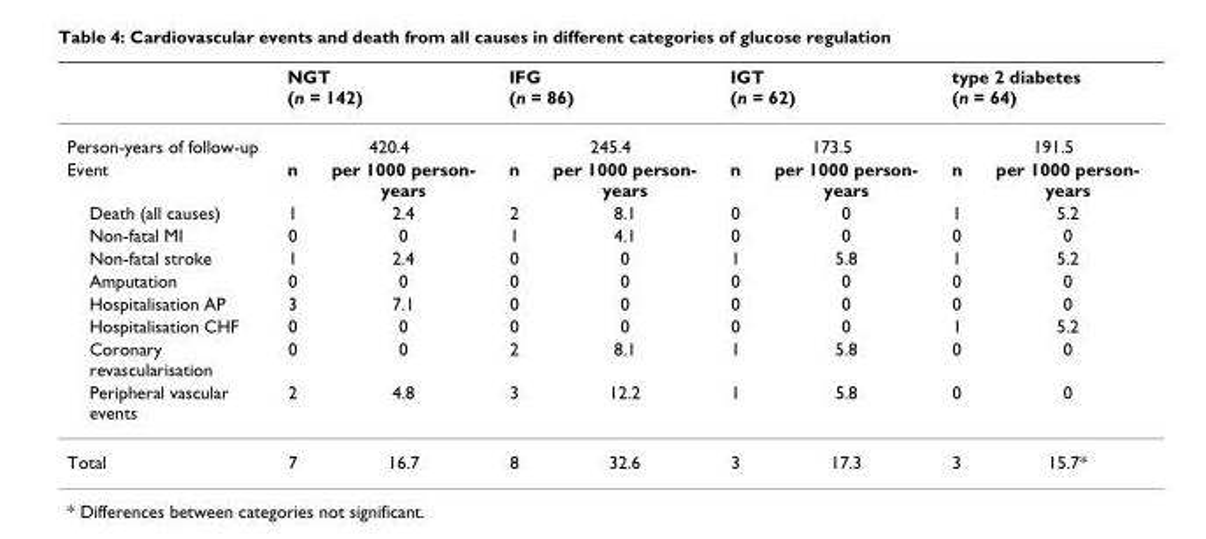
<table><thead><tr><td rowspan="3">Person-years of follow-up Event</td><td rowspan="2" colspan="2">NGT (n = 142) 420.4</td><td rowspan="2" colspan="2">IFG (n = 86) 245.4</td><td rowspan="2" colspan="2">IGT (n = 62) 173.5</td><td rowspan="2" colspan="2">type 2 diabetes (n = 64) 191.5</td></tr><tr></tr><tr><td>n</td><td>per 1000 person- years</td><td>n</td><td>per 1000 person- years</td><td>n</td><td>per 1000 person- years</td><td>n</td><td>per 1000 person- years</td></tr></thead><tbody><tr><td>Death (all causes)</td><td>1</td><td>2.4</td><td>2</td><td>8.1</td><td>0</td><td>0</td><td>1</td><td>5.2</td></tr><tr><td>Non-fatal MI</td><td>0</td><td>0</td><td>1</td><td>4.1</td><td>0</td><td>0</td><td>0</td><td>0</td></tr><tr><td>Non-fatal stroke</td><td>1</td><td>2.4</td><td>0</td><td>0</td><td>1</td><td>5.8</td><td>1</td><td>5.2</td></tr><tr><td>Amputation</td><td>0</td><td>0</td><td>0</td><td>0</td><td>0</td><td>0</td><td>0</td><td>0</td></tr><tr><td>Hospitalisation AP</td><td>3</td><td>7.1</td><td>0</td><td>0</td><td>0</td><td>0</td><td>0</td><td>0</td></tr><tr><td>Hospitalisation CHF</td><td>0</td><td>0</td><td>0</td><td>0</td><td>0</td><td>0</td><td>1</td><td>5.2</td></tr><tr><td>Coronary revascularisation</td><td>0</td><td>0</td><td>2</td><td>8.1</td><td>1</td><td>5.8</td><td>0</td><td>0</td></tr><tr><td>Peripheral vascular events</td><td>2</td><td>4.8</td><td>3</td><td>12.2</td><td>1</td><td>5.8</td><td>0</td><td>0</td></tr><tr><td>Total</td><td>7</td><td>16.7</td><td>8</td><td>32.6</td><td>3</td><td>17.3</td><td>3</td><td>15.7*</td></tr></tbody></table>